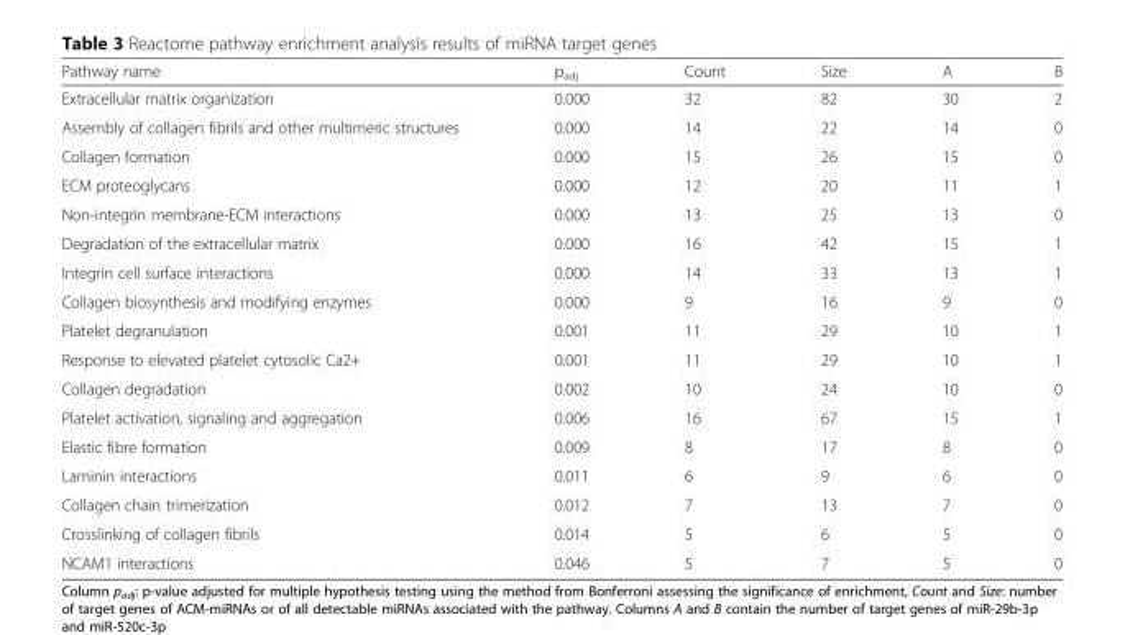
<table><thead><tr><td>Pathway name</td><td>p<sub>adj</sub></td><td>Count</td><td>Size</td><td>A</td><td>B</td></tr></thead><tbody><tr><td>Extracellular matrix organization</td><td>0.000</td><td>32</td><td>82</td><td>30</td><td>2</td></tr><tr><td>Assembly of collagen fibrils and other multimeric structures</td><td>0.000</td><td>14</td><td>22</td><td>14</td><td>0</td></tr><tr><td>Collagen formation</td><td>0.000</td><td>15</td><td>26</td><td>15</td><td>0</td></tr><tr><td>ECM proteoglycans</td><td>0.000</td><td>12</td><td>20</td><td>11</td><td>1</td></tr><tr><td>Non-integrin membrane-ECM interactions</td><td>0.000</td><td>13</td><td>25</td><td>13</td><td>0</td></tr><tr><td>Degradation of the extracellular matrix</td><td>0.000</td><td>16</td><td>42</td><td>15</td><td>1</td></tr><tr><td>Integrin cell surface interactions</td><td>0.000</td><td>14</td><td>33</td><td>13</td><td>1</td></tr><tr><td>Collagen biosynthesis and modifying enzymes</td><td>0.000</td><td>9</td><td>16</td><td>9</td><td>0</td></tr><tr><td>Platelet degranulation</td><td>0.001</td><td>11</td><td>29</td><td>10</td><td>1</td></tr><tr><td>Response to elevated platelet cytosolic Ca2+</td><td>0.001</td><td>11</td><td>29</td><td>10</td><td>1</td></tr><tr><td>Collagen degradation</td><td>0.002</td><td>10</td><td>24</td><td>10</td><td>0</td></tr><tr><td>Platelet activation, signaling and aggregation</td><td>0.006</td><td>16</td><td>67</td><td>15</td><td>1</td></tr><tr><td>Elastic fibre formation</td><td>0.009</td><td>8</td><td>17</td><td>8</td><td>0</td></tr><tr><td>Laminin interactions</td><td>0.011</td><td>6</td><td>9</td><td>6</td><td>0</td></tr><tr><td>Collagen chain trimerization</td><td>0.012</td><td>7</td><td>13</td><td>7</td><td>0</td></tr><tr><td>Crosslinking of collagen fibrils</td><td>0.014</td><td>5</td><td>6</td><td>5</td><td>0</td></tr><tr><td>NCAM1 interactions</td><td>0.046</td><td>5</td><td>7</td><td>5</td><td>0</td></tr></tbody></table>